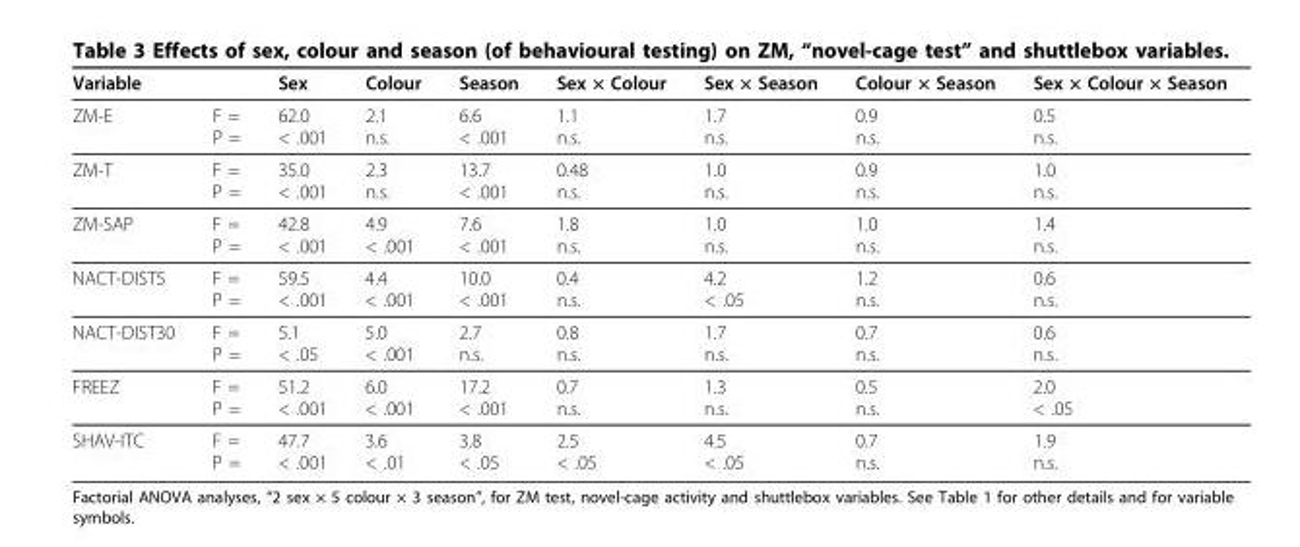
<table><thead><tr><td>Variable</td><td></td><td>Sex</td><td>Colour</td><td>Season</td><td>Sex × Colour</td><td>Sex × Season</td><td>Colour × Season</td><td>Sex × Colour × Season</td></tr></thead><tbody><tr><td>ZM-E</td><td>F = P =</td><td>62.0 &lt; .001</td><td>2.1 n.s.</td><td>6.6 &lt; .001</td><td>1.1 n.s.</td><td>1.7 n.s.</td><td>0.9 n.s.</td><td>0.5 n.s.</td></tr><tr><td>ZM-T</td><td>F = P =</td><td>35.0 &lt; .001</td><td>2.3 n.s.</td><td>13.7 &lt; .001</td><td>0.48 n.s.</td><td>1.0 n.s.</td><td>0.9 n.s.</td><td>1.0 n.s.</td></tr><tr><td>ZM-SAP</td><td>F = P =</td><td>42.8 &lt; .001</td><td>4.9 &lt; .001</td><td>7.6 &lt; .001</td><td>1.8 n.s.</td><td>1.0 n.s.</td><td>1.0 n.s.</td><td>1.4 n.s.</td></tr><tr><td>NACT-DIST5</td><td>F = P =</td><td>59.5 &lt; .001</td><td>4.4 &lt; .001</td><td>10.0 &lt; .001</td><td>0.4 n.s.</td><td>4.2 &lt; .05</td><td>1.2 n.s.</td><td>0.6 n.s.</td></tr><tr><td>NACT-DIST30</td><td>F = P =</td><td>5.1 &lt; .05</td><td>5.0 &lt; .001</td><td>2.7 n.s.</td><td>0.8 n.s.</td><td>1.7 n.s.</td><td>0.7 n.s.</td><td>0.6 n.s.</td></tr><tr><td>FREEZ</td><td>F = P =</td><td>51.2 &lt; .001</td><td>6.0 &lt; .001</td><td>17.2 &lt; .001</td><td>0.7 n.s.</td><td>1.3 n.s.</td><td>0.5 n.s.</td><td>2.0 &lt; .05</td></tr><tr><td>SHAV-ITC</td><td>F = P =</td><td>47.7 &lt; .001</td><td>3.6 &lt; .01</td><td>3.8 &lt; .05</td><td>2.5 &lt; .05</td><td>4.5 &lt; .05</td><td>0.7 n.s.</td><td>1.9 n.s.</td></tr></tbody></table>